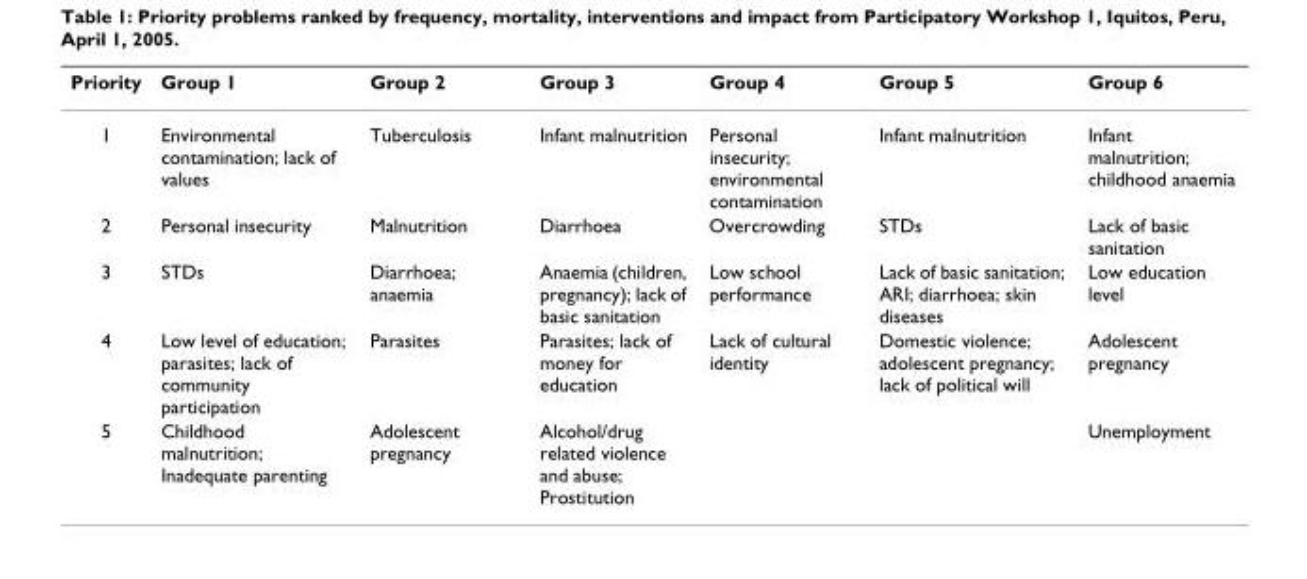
<table><thead><tr><td>Priority</td><td>Group 1</td><td>Group 2</td><td>Group 3</td><td>Group 4</td><td>Group 5</td><td>Group 6</td></tr></thead><tbody><tr><td>1</td><td>Environmental contamination; lack of values</td><td>Tuberculosis</td><td>Infant malnutrition</td><td>Personal insecurity; environmental contamination</td><td>Infant malnutrition</td><td>Infant malnutrition; childhood anaemia</td></tr><tr><td>2</td><td>Personal insecurity</td><td>Malnutrition</td><td>Diarrhoea</td><td>Overcrowding</td><td>STDs</td><td>Lack of basic sanitation</td></tr><tr><td>3</td><td>STDs</td><td>Diarrhoea; anaemia</td><td>Anaemia (children, pregnancy); lack of basic sanitation</td><td>Low school performance</td><td>Lack of basic sanitation; ARI; diarrhoea; skin diseases</td><td>Low education level</td></tr><tr><td>4</td><td>Low level of education; parasites; lack of community participation</td><td>Parasites</td><td>Parasites; lack of money for education</td><td>Lack of cultural identity</td><td>Domestic violence; adolescent pregnancy; lack of political will</td><td>Adolescent pregnancy</td></tr><tr><td>5</td><td>Childhood malnutrition; Inadequate parenting</td><td>Adolescent pregnancy</td><td>Alcohol/drug related violence and abuse; Prostitution</td><td></td><td></td><td>Unemployment</td></tr></tbody></table>